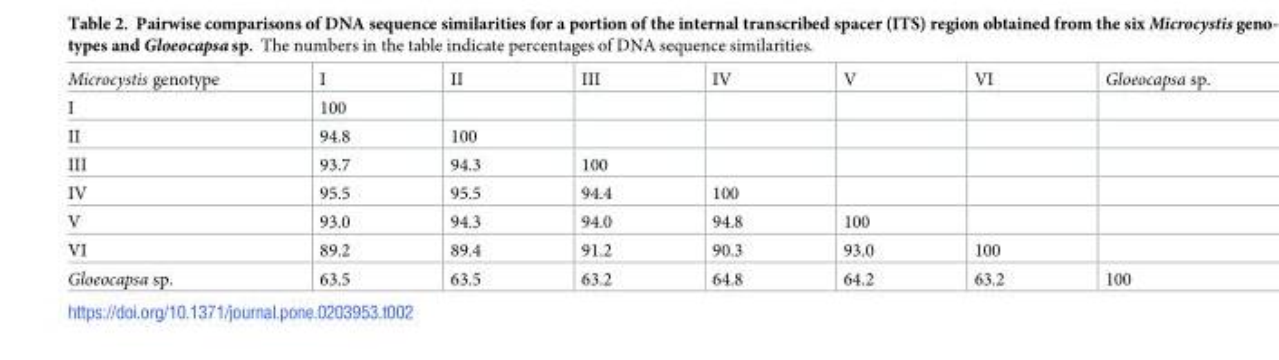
<table><tbody><tr><td>Microcystis genotype</td><td>I</td><td>II</td><td>III</td><td>IV</td><td>V</td><td>VI</td><td>Gloeocapsa sp.</td></tr><tr><td>I</td><td>100</td><td></td><td></td><td></td><td></td><td></td><td></td></tr><tr><td>II</td><td>94.8</td><td>100</td><td></td><td></td><td></td><td></td><td></td></tr><tr><td>III</td><td>93.7</td><td>94.3</td><td>100</td><td></td><td></td><td></td><td></td></tr><tr><td>IV</td><td>95.5</td><td>95.5</td><td>94.4</td><td>100</td><td></td><td></td><td></td></tr><tr><td>V</td><td>93.0</td><td>94.3</td><td>94.0</td><td>94.8</td><td>100</td><td></td><td></td></tr><tr><td>VI</td><td>89.2</td><td>89.4</td><td>91.2</td><td>90.3</td><td>93.0</td><td>100</td><td></td></tr><tr><td>Gloeocapsa sp.</td><td>63.5</td><td>63.5</td><td>63.2</td><td>64.8</td><td>64.2</td><td>63.2</td><td>100</td></tr></tbody></table>